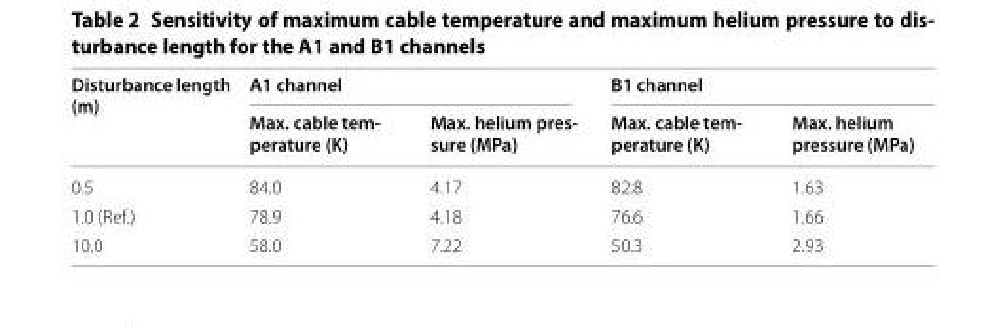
<table><thead><tr><td rowspan="2">Disturbance length (m)</td><td colspan="2">A1 channel</td><td colspan="2">B1 channel</td></tr><tr><td>Max. cable tem- perature (K)</td><td>Max. helium pres- sure (MPa)</td><td>Max. cable tem- perature (K)</td><td>Max. helium pressure (MPa)</td></tr></thead><tbody><tr><td>0.5</td><td>84.0</td><td>4.17</td><td>82.8</td><td>1.63</td></tr><tr><td>1.0 (Ref.)</td><td>78.9</td><td>4.18</td><td>76.6</td><td>1.66</td></tr><tr><td>10.0</td><td>58.0</td><td>7.22</td><td>50.3</td><td>2.93</td></tr></tbody></table>